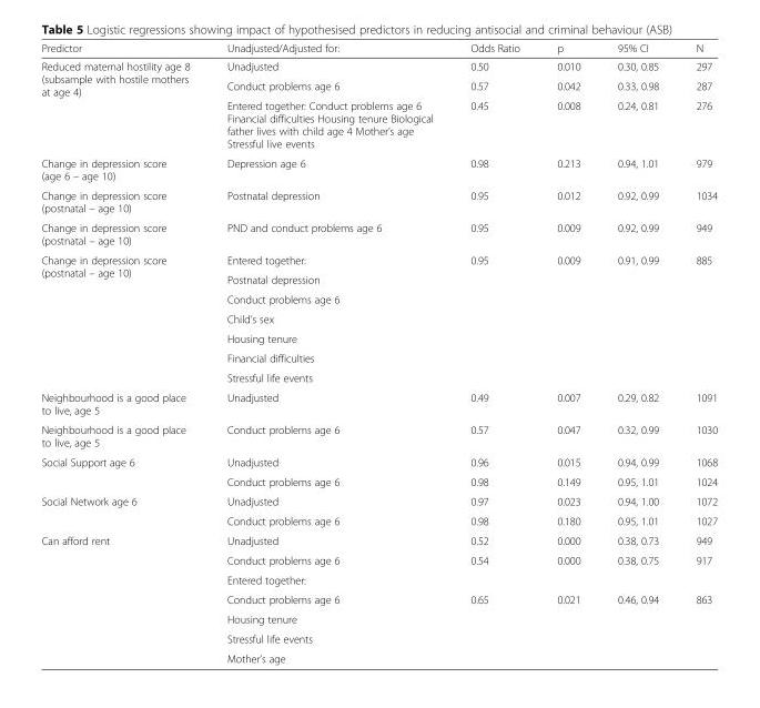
<table><thead><tr><td>Predictor</td><td>Unadjusted/Adjusted for:</td><td>Odds Ratio</td><td>p</td><td>95% CI</td><td>N</td></tr></thead><tbody><tr><td rowspan="3">Reduced maternal hostility age 8 (subsample with hostile mothers at age 4)</td><td>Unadjusted</td><td>0.50</td><td>0.010</td><td>0.30, 0.85</td><td>297</td></tr><tr><td>Conduct problems age 6</td><td>0.57</td><td>0.042</td><td>0.33, 0.98</td><td>287</td></tr><tr><td>Entered together: Conduct problems age 6 Financial difficulties Housing tenure Biological father lives with child age 4 Mother’s age Stressful live events</td><td>0.45</td><td>0.008</td><td>0.24, 0.81</td><td>276</td></tr><tr><td>Change in depression score (age 6 – age 10)</td><td>Depression age 6</td><td>0.98</td><td>0.213</td><td>0.94, 1.01</td><td>979</td></tr><tr><td>Change in depression score (postnatal – age 10)</td><td>Postnatal depression</td><td>0.95</td><td>0.012</td><td>0.92, 0.99</td><td>1034</td></tr><tr><td>Change in depression score (postnatal – age 10)</td><td>PND and conduct problems age 6</td><td>0.95</td><td>0.009</td><td>0.92, 0.99</td><td>949</td></tr><tr><td rowspan="7">Change in depression score (postnatal – age 10)</td><td>Entered together:</td><td rowspan="7">0.95</td><td rowspan="7">0.009</td><td rowspan="7">0.91, 0.99</td><td rowspan="7">885</td></tr><tr><td>Postnatal depression</td></tr><tr><td>Conduct problems age 6</td></tr><tr><td>Child’s sex</td></tr><tr><td>Housing tenure</td></tr><tr><td>Financial difficulties</td></tr><tr><td>Stressful life events</td></tr><tr><td>Neighbourhood is a good place to live, age 5</td><td>Unadjusted</td><td>0.49</td><td>0.007</td><td>0.29, 0.82</td><td>1091</td></tr><tr><td>Neighbourhood is a good place to live, age 5</td><td>Conduct problems age 6</td><td>0.57</td><td>0.047</td><td>0.32, 0.99</td><td>1030</td></tr><tr><td rowspan="2">Social Support age 6</td><td>Unadjusted</td><td>0.96</td><td>0.015</td><td>0.94, 0.99</td><td>1068</td></tr><tr><td>Conduct problems age 6</td><td>0.98</td><td>0.149</td><td>0.95, 1.01</td><td>1024</td></tr><tr><td rowspan="2">Social Network age 6</td><td>Unadjusted</td><td>0.97</td><td>0.023</td><td>0.94, 1.00</td><td>1072</td></tr><tr><td>Conduct problems age 6</td><td>0.98</td><td>0.180</td><td>0.95, 1.01</td><td>1027</td></tr><tr><td rowspan="7">Can afford rent</td><td>Unadjusted</td><td>0.52</td><td>0.000</td><td>0.38, 0.73</td><td>949</td></tr><tr><td>Conduct problems age 6</td><td>0.54</td><td>0.000</td><td>0.38, 0.75</td><td>917</td></tr><tr><td>Entered together:</td><td></td><td></td><td></td><td></td></tr><tr><td>Conduct problems age 6</td><td rowspan="4">0.65</td><td rowspan="4">0.021</td><td rowspan="4">0.46, 0.94</td><td rowspan="4">863</td></tr><tr><td>Housing tenure</td></tr><tr><td>Stressful life events</td></tr><tr><td>Mother’s age</td></tr></tbody></table>